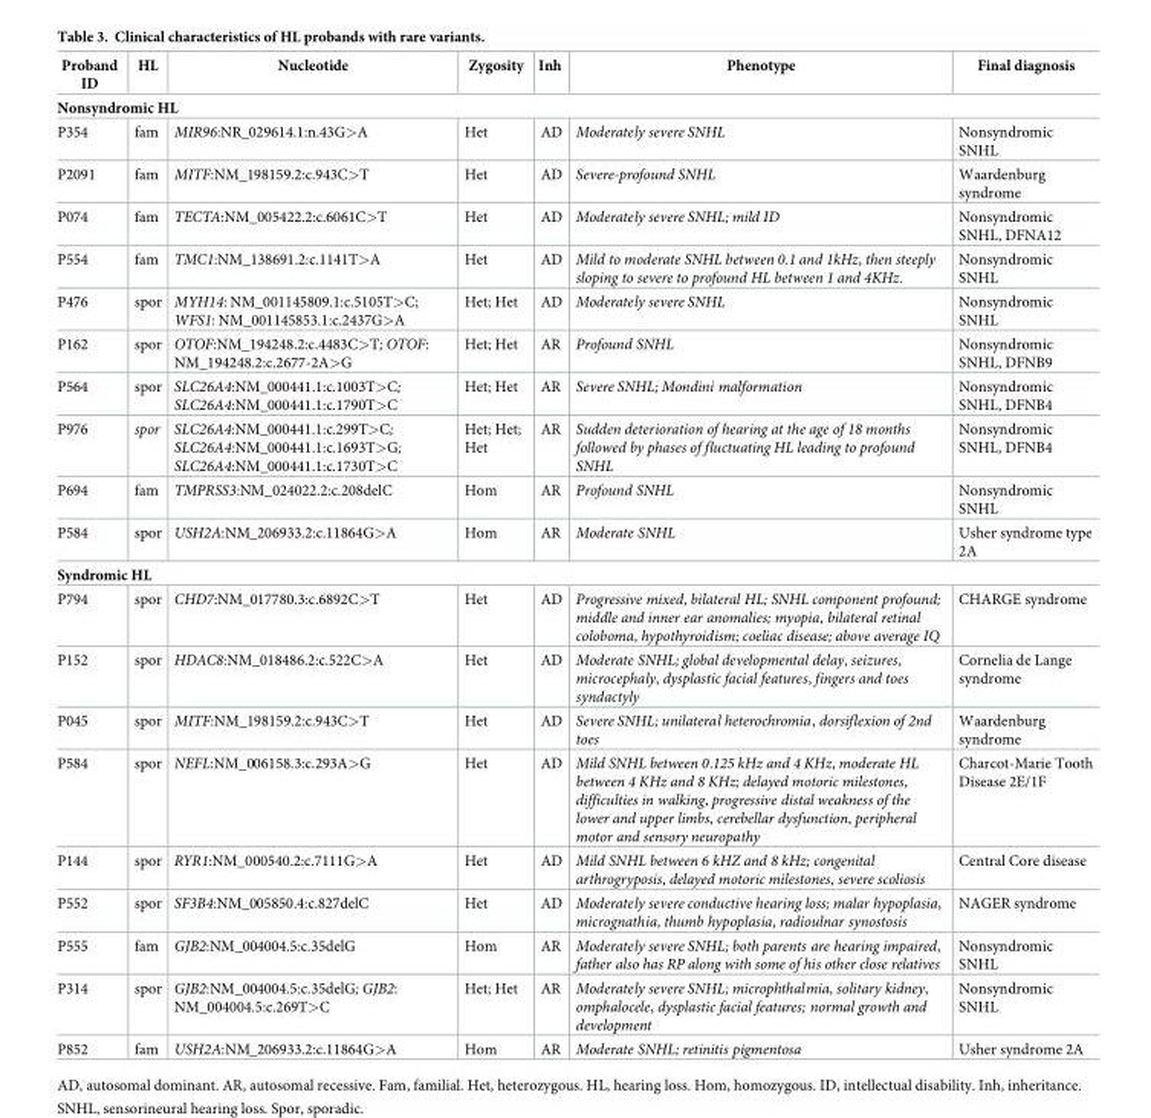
<table><thead><tr><td>Proband ID</td><td>HL</td><td>Nucleotide</td><td>Zygosity</td><td>Inh</td><td>Phenotype</td><td>Final diagnosis</td></tr></thead><tbody><tr><td colspan="7">Nonsyndromic HL</td></tr><tr><td>P354</td><td>fam</td><td>MIR96:NR_029614.1:n.43G&gt;A</td><td>Het</td><td>AD</td><td>Moderately severe SNHL</td><td>Nonsyndromic SNHL</td></tr><tr><td>P2091</td><td>fam</td><td>MITF:NM_198159.2:c.943C&gt;T</td><td>Het</td><td>AD</td><td>Severe-profound SNHL</td><td>Waardenburg syndrome</td></tr><tr><td>P074</td><td>fam</td><td>TECTA:NM_005422.2:c.6061C&gt;T</td><td>Het</td><td>AD</td><td>Moderately severe SNHL; mild ID</td><td>Nonsyndromic SNHL, DFNA12</td></tr><tr><td>P554</td><td>fam</td><td>TMC1:NM_138691.2:c.1141T&gt;A</td><td>Het</td><td>AD</td><td>Mild to moderate SNHL between 0.1 and 1kHz, then steeply sloping to severe to profound HL between 1 and 4KHz.</td><td>Nonsyndromic SNHL</td></tr><tr><td>P476</td><td>spor</td><td>MYH14: NM_001145809.1:c.5105T&gt;C; WFS1: NM_001145853.1:c.2437G&gt;A</td><td>Het; Het</td><td>AD</td><td>Moderately severe SNHL</td><td>Nonsyndromic SNHL</td></tr><tr><td>P162</td><td>spor</td><td>OTOF:NM_194248.2:c.4483C&gt;T; OTOF: NM_194248.2:c.2677-2A&gt;G</td><td>Het; Het</td><td>AR</td><td>Profound SNHL</td><td>Nonsyndromic SNHL, DFNB9</td></tr><tr><td>P564</td><td>spor</td><td>SLC26A4:NM_000441.1:c.1003T&gt;C; SLC26A4:NM_000441.1:c.1790T&gt;C</td><td>Het; Het</td><td>AR</td><td>Severe SNHL; Mondini malformation</td><td>Nonsyndromic SNHL, DFNB4</td></tr><tr><td>P976</td><td>spor</td><td>SLC26A4:NM_000441.1:c.299T&gt;C; SLC26A4:NM_000441.1:c.1693T&gt;G; SLC26A4:NM_000441.1:c.1730T&gt;C</td><td>Het; Het; Het</td><td>AR</td><td>Sudden deterioration of hearing at the age of 18 months followed by phases of fluctuating HL leading to profound SNHL</td><td>Nonsyndromic SNHL, DFNB4</td></tr><tr><td>P694</td><td>fam</td><td>TMPRSS3:NM_024022.2:c.208delC</td><td>Hom</td><td>AR</td><td>Profound SNHL</td><td>Nonsyndromic SNHL</td></tr><tr><td>P584</td><td>spor</td><td>USH2A:NM_206933.2:c.11864G&gt;A</td><td>Hom</td><td>AR</td><td>Moderate SNHL</td><td>Usher syndrome type 2A</td></tr><tr><td colspan="7">Syndromic HL</td></tr><tr><td>P794</td><td>spor</td><td>CHD7:NM_017780.3:c.6892C&gt;T</td><td>Het</td><td>AD</td><td>Progressive mixed, bilateral HL; SNHL component profound; middle and inner ear anomalies; myopia, bilateral retinal coloboma, hypothyroidism; coeliac disease; above average IQ</td><td>CHARGE syndrome</td></tr><tr><td>P152</td><td>spor</td><td>HDAC8:NM_018486.2:c.522C&gt;A</td><td>Het</td><td>AD</td><td>Moderate SNHL; global developmental delay, seizures, microcephaly, dysplastic facial features, fingers and toes syndactyly</td><td>Cornelia de Lange syndrome</td></tr><tr><td>P045</td><td>spor</td><td>MITF:NM_198159.2:c.943C&gt;T</td><td>Het</td><td>AD</td><td>Severe SNHL; unilateral heterochromia, dorsiflexion of 2nd toes</td><td>Waardenburg syndrome</td></tr><tr><td>P584</td><td>spor</td><td>NEFL:NM_006158.3:c.293A&gt;G</td><td>Het</td><td>AD</td><td>Mild SNHL between 0.125 kHz and 4 KHz, moderate HL between 4 KHz and 8 KHz; delayed motoric milestones, difficulties in walking, progressive distal weakness of the lower and upper limbs, cerebellar dysfunction, peripheral motor and sensory neuropathy</td><td>Charcot-Marie Tooth Disease 2E/1F</td></tr><tr><td>P144</td><td>spor</td><td>RYR1:NM_000540.2:c.7111G&gt;A</td><td>Het</td><td>AD</td><td>Mild SNHL between 6 kHZ and 8 kHz; congenital arthrogryposis, delayed motoric milestones, severe scoliosis</td><td>Central Core disease</td></tr><tr><td>P552</td><td>spor</td><td>SF3B4:NM_005850.4:c.827delC</td><td>Het</td><td>AD</td><td>Moderately severe conductive hearing loss; malar hypoplasia, micrognathia, thumb hypoplasia, radioulnar synostosis</td><td>NAGER syndrome</td></tr><tr><td>P555</td><td>fam</td><td>GJB2:NM_004004.5:c.35delG</td><td>Hom</td><td>AR</td><td>Moderately severe SNHL; both parents are hearing impaired, father also has RP along with some of his other close relatives</td><td>Nonsyndromic SNHL</td></tr><tr><td>P314</td><td>spor</td><td>GJB2:NM_004004.5:c.35delG; GJB2: NM_004004.5:c.269T&gt;C</td><td>Het; Het</td><td>AR</td><td>Moderately severe SNHL; microphthalmia, solitary kidney, omphalocele, dysplastic facial features; normal growth and development</td><td>Nonsyndromic SNHL</td></tr><tr><td>P852</td><td>fam</td><td>USH2A:NM_206933.2:c.11864G&gt;A</td><td>Hom</td><td>AR</td><td>Moderate SNHL; retinitis pigmentosa</td><td>Usher syndrome 2A</td></tr></tbody></table>